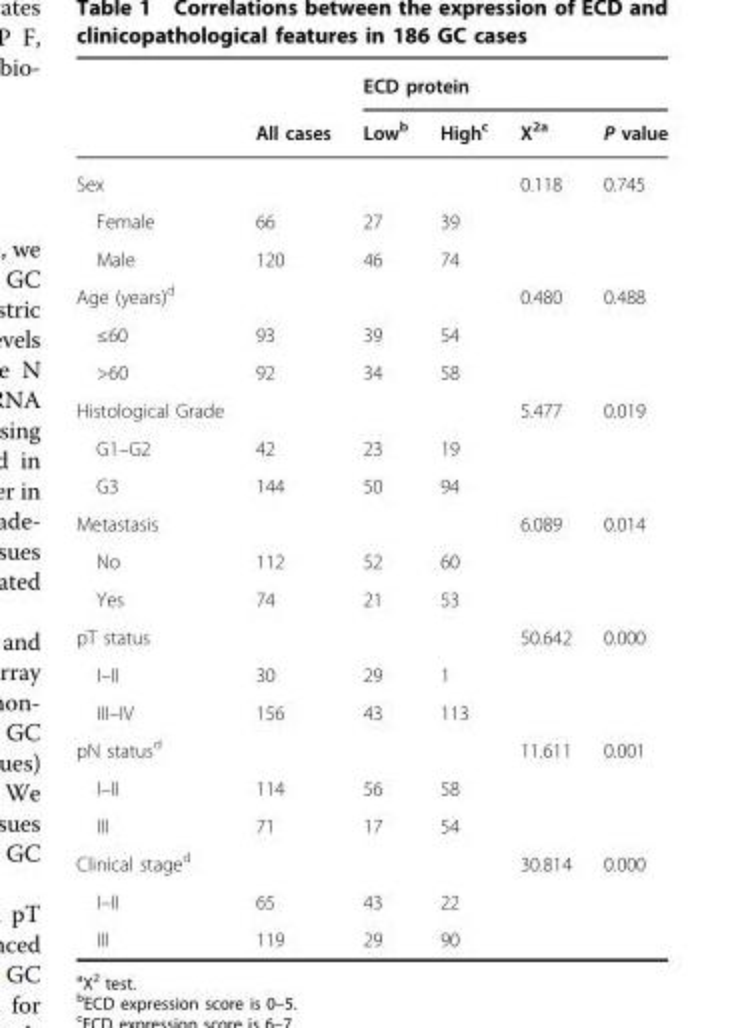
<table><thead><tr><td rowspan="2"></td><td rowspan="2">All cases</td><td colspan="4">ECD protein</td></tr><tr><td>Low<sup>b</sup></td><td>High<sup>c</sup></td><td>X<sup>2a</sup></td><td>P value</td></tr></thead><tbody><tr><td>Sex</td><td></td><td></td><td></td><td>0.118</td><td>0.745</td></tr><tr><td>Female</td><td>66</td><td>27</td><td>39</td><td></td><td></td></tr><tr><td>Male</td><td>120</td><td>46</td><td>74</td><td></td><td></td></tr><tr><td>Age (years)<sup>d</sup></td><td></td><td></td><td></td><td>0.480</td><td>0.488</td></tr><tr><td>≤60</td><td>93</td><td>39</td><td>54</td><td></td><td></td></tr><tr><td>&gt;60</td><td>92</td><td>34</td><td>58</td><td></td><td></td></tr><tr><td>Histological Grade</td><td></td><td></td><td></td><td>5.477</td><td>0.019</td></tr><tr><td>G1–G2</td><td>42</td><td>23</td><td>19</td><td></td><td></td></tr><tr><td>G3</td><td>144</td><td>50</td><td>94</td><td></td><td></td></tr><tr><td>Metastasis</td><td></td><td></td><td></td><td>6.089</td><td>0.014</td></tr><tr><td>No</td><td>112</td><td>52</td><td>60</td><td></td><td></td></tr><tr><td>Yes</td><td>74</td><td>21</td><td>53</td><td></td><td></td></tr><tr><td>pT status</td><td></td><td></td><td></td><td>50.642</td><td>0.000</td></tr><tr><td>I–II</td><td>30</td><td>29</td><td>1</td><td></td><td></td></tr><tr><td>III–IV</td><td>156</td><td>43</td><td>113</td><td></td><td></td></tr><tr><td>pN status<sup>d</sup></td><td></td><td></td><td></td><td>11.611</td><td>0.001</td></tr><tr><td>I–II</td><td>114</td><td>56</td><td>58</td><td></td><td></td></tr><tr><td>III</td><td>71</td><td>17</td><td>54</td><td></td><td></td></tr><tr><td>Clinical stage<sup>d</sup></td><td></td><td></td><td></td><td>30.814</td><td>0.000</td></tr><tr><td>I–II</td><td>65</td><td>43</td><td>22</td><td></td><td></td></tr><tr><td>III</td><td>119</td><td>29</td><td>90</td><td></td><td></td></tr></tbody></table>